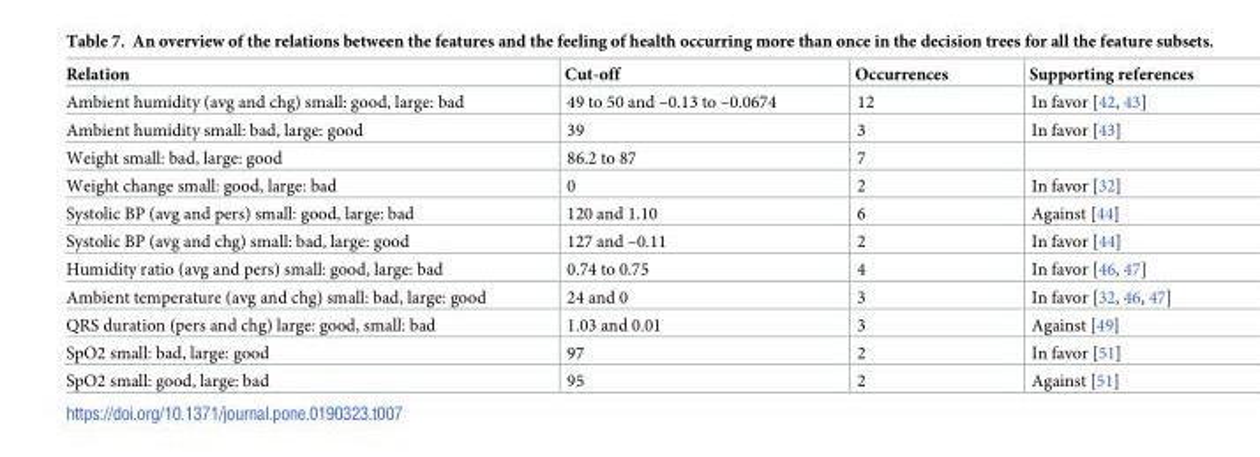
<table><thead><tr><td>Relation</td><td>Cut-off</td><td>Occurrences</td><td>Supporting references</td></tr></thead><tbody><tr><td>Ambient humidity (avg and chg) small: good, large: bad</td><td>49 to 50 and –0.13 to –0.0674</td><td>12</td><td>In favor [42, 43]</td></tr><tr><td>Ambient humidity small: bad, large: good</td><td>39</td><td>3</td><td>In favor [43]</td></tr><tr><td>Weight small: bad, large: good</td><td>86.2 to 87</td><td>7</td><td></td></tr><tr><td>Weight change small: good, large: bad</td><td>0</td><td>2</td><td>In favor [32]</td></tr><tr><td>Systolic BP (avg and pers) small: good, large: bad</td><td>120 and 1.10</td><td>6</td><td>Against [44]</td></tr><tr><td>Systolic BP (avg and chg) small: bad, large: good</td><td>127 and –0.11</td><td>2</td><td>In favor [44]</td></tr><tr><td>Humidity ratio (avg and pers) small: good, large: bad</td><td>0.74 to 0.75</td><td>4</td><td>In favor [46, 47]</td></tr><tr><td>Ambient temperature (avg and chg) small: bad, large: good</td><td>24 and 0</td><td>3</td><td>In favor [32, 46, 47]</td></tr><tr><td>QRS duration (pers and chg) large: good, small: bad</td><td>1.03 and 0.01</td><td>3</td><td>Against [49]</td></tr><tr><td>SpO2 small: bad, large: good</td><td>97</td><td>2</td><td>In favor [51]</td></tr><tr><td>SpO2 small: good, large: bad</td><td>95</td><td>2</td><td>Against [51]</td></tr></tbody></table>